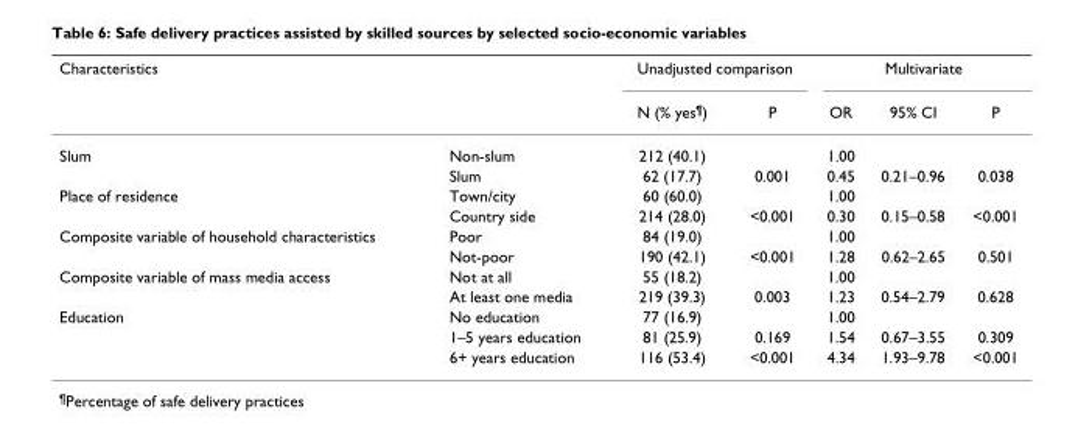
<table><thead><tr><td rowspan="2">Characteristics</td><td rowspan="2"></td><td colspan="2">Unadjusted comparison</td><td colspan="3">Multivariate</td></tr><tr><td>N (% yes<sup>¶</sup>)</td><td>P</td><td>OR</td><td>95% CI</td><td>P</td></tr></thead><tbody><tr><td rowspan="2">Slum</td><td>Non-slum</td><td>212 (40.1)</td><td></td><td>1.00</td><td></td><td></td></tr><tr><td>Slum</td><td>62 (17.7)</td><td>0.001</td><td>0.45</td><td>0.21–0.96</td><td>0.038</td></tr><tr><td rowspan="2">Place of residence</td><td>Town/city</td><td>60 (60.0)</td><td></td><td>1.00</td><td></td><td></td></tr><tr><td>Country side</td><td>214 (28.0)</td><td>&lt;0.001</td><td>0.30</td><td>0.15–0.58</td><td>&lt;0.001</td></tr><tr><td rowspan="2">Composite variable of household characteristics</td><td>Poor</td><td>84 (19.0)</td><td></td><td>1.00</td><td></td><td></td></tr><tr><td>Not-poor</td><td>190 (42.1)</td><td>&lt;0.001</td><td>1.28</td><td>0.62–2.65</td><td>0.501</td></tr><tr><td rowspan="2">Composite variable of mass media access</td><td>Not at all</td><td>55 (18.2)</td><td></td><td>1.00</td><td></td><td></td></tr><tr><td>At least one media</td><td>219 (39.3)</td><td>0.003</td><td>1.23</td><td>0.54–2.79</td><td>0.628</td></tr><tr><td rowspan="3">Education</td><td>No education</td><td>77 (16.9)</td><td></td><td>1.00</td><td></td><td></td></tr><tr><td>1–5 years education</td><td>81 (25.9)</td><td>0.169</td><td>1.54</td><td>0.67–3.55</td><td>0.309</td></tr><tr><td>6+ years education</td><td>116 (53.4)</td><td>&lt;0.001</td><td>4.34</td><td>1.93–9.78</td><td>&lt;0.001</td></tr></tbody></table>